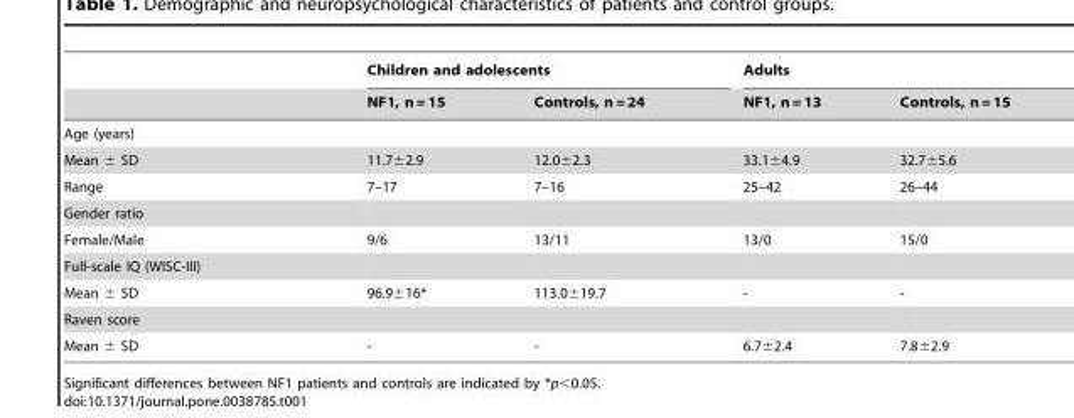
<table><thead><tr><td rowspan="2"></td><td colspan="2">Children and adolescents</td><td colspan="2">Adults</td></tr><tr><td>NF1, n = 15</td><td>Controls, n = 24</td><td>NF1, n = 13</td><td>Controls, n = 15</td></tr></thead><tbody><tr><td colspan="5">Age (years)</td></tr><tr><td>Mean ± SD</td><td>11.7±2.9</td><td>12.0±2.3</td><td>33.1±4.9</td><td>32.7±5.6</td></tr><tr><td>Range</td><td>7–17</td><td>7–16</td><td>25–42</td><td>26–44</td></tr><tr><td colspan="5">Gender ratio</td></tr><tr><td>Female/Male</td><td>9/6</td><td>13/11</td><td>13/0</td><td>15/0</td></tr><tr><td colspan="5">Full-scale IQ (WISC-III)</td></tr><tr><td>Mean ± SD</td><td>96.9±16*</td><td>113.0±19.7</td><td>-</td><td>-</td></tr><tr><td colspan="5">Raven score</td></tr><tr><td>Mean ± SD</td><td>-</td><td>-</td><td>6.7±2.4</td><td>7.8±2.9</td></tr></tbody></table>